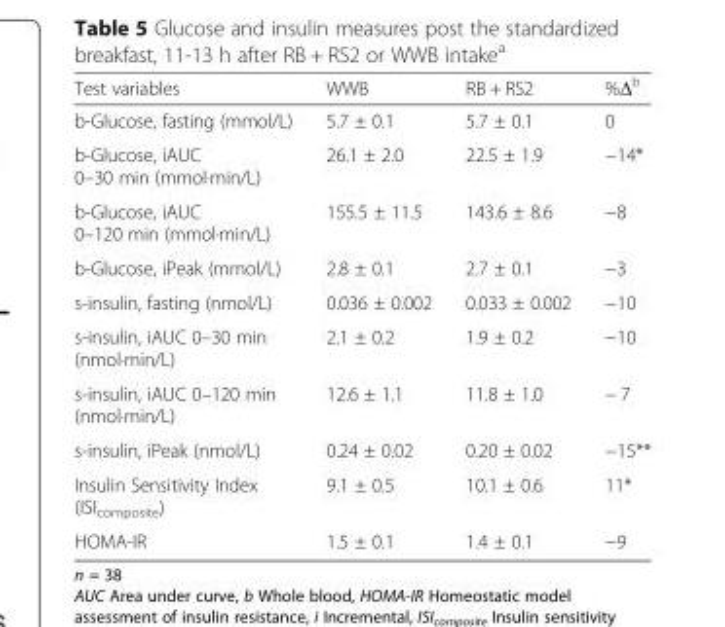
<table><thead><tr><td>Test variables</td><td>WWB</td><td>RB + RS2</td><td>%Δ<sup>b</sup></td></tr></thead><tbody><tr><td>b-Glucose, fasting (mmol/L)</td><td>5.7 ± 0.1</td><td>5.7 ± 0.1</td><td>0</td></tr><tr><td>b-Glucose, iAUC 0–30 min (mmol·min/L)</td><td>26.1 ± 2.0</td><td>22.5 ± 1.9</td><td>−14*</td></tr><tr><td>b-Glucose, iAUC 0–120 min (mmol·min/L)</td><td>155.5 ± 11.5</td><td>143.6 ± 8.6</td><td>−8</td></tr><tr><td>b-Glucose, iPeak (mmol/L)</td><td>2.8 ± 0.1</td><td>2.7 ± 0.1</td><td>−3</td></tr><tr><td>s-insulin, fasting (nmol/L)</td><td>0.036 ± 0.002</td><td>0.033 ± 0.002</td><td>−10</td></tr><tr><td>s-insulin, iAUC 0–30 min (nmol·min/L)</td><td>2.1 ± 0.2</td><td>1.9 ± 0.2</td><td>−10</td></tr><tr><td>s-insulin, iAUC 0–120 min (nmol·min/L)</td><td>12.6 ± 1.1</td><td>11.8 ± 1.0</td><td>− 7</td></tr><tr><td>s-insulin, iPeak (nmol/L)</td><td>0.24 ± 0.02</td><td>0.20 ± 0.02</td><td>−15**</td></tr><tr><td>Insulin Sensitivity Index (ISI<sub>composite</sub>)</td><td>9.1 ± 0.5</td><td>10.1 ± 0.6</td><td>11*</td></tr><tr><td>HOMA-IR</td><td>1.5 ± 0.1</td><td>1.4 ± 0.1</td><td>−9</td></tr></tbody></table>